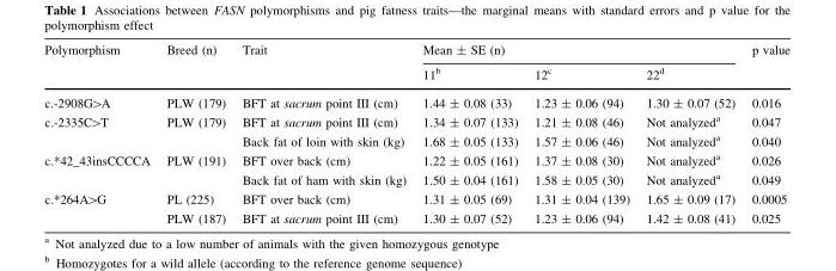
<table><thead><tr><td rowspan="2">Polymorphism</td><td rowspan="2">Breed (n)</td><td rowspan="2">Trait</td><td colspan="3">Mean ± SE (n)</td><td rowspan="2">p value</td></tr><tr><td>11<sup>b</sup></td><td>12<sup>c</sup></td><td>22<sup>d</sup></td></tr></thead><tbody><tr><td>c.-2908G&gt;A</td><td>PLW (179)</td><td>BFT at sacrum point III (cm)</td><td>1.44 ± 0.08 (33)</td><td>1.23 ± 0.06 (94)</td><td>1.30 ± 0.07 (52)</td><td>0.016</td></tr><tr><td rowspan="2">c.-2335C&gt;T</td><td rowspan="2">PLW (179)</td><td>BFT at sacrum point III (cm)</td><td>1.34 ± 0.07 (133)</td><td>1.21 ± 0.08 (46)</td><td>Not analyzed<sup>a</sup></td><td>0.047</td></tr><tr><td>Back fat of loin with skin (kg)</td><td>1.68 ± 0.05 (133)</td><td>1.57 ± 0.06 (46)</td><td>Not analyzed<sup>a</sup></td><td>0.040</td></tr><tr><td rowspan="2">c.*42_43insCCCCA</td><td rowspan="2">PLW (191)</td><td>BFT over back (cm)</td><td>1.22 ± 0.05 (161)</td><td>1.37 ± 0.08 (30)</td><td>Not analyzed<sup>a</sup></td><td>0.026</td></tr><tr><td>Back fat of ham with skin (kg)</td><td>1.50 ± 0.04 (161)</td><td>1.58 ± 0.05 (30)</td><td>Not analyzed<sup>a</sup></td><td>0.049</td></tr><tr><td rowspan="2">c.*264A&gt;G</td><td>PL (225)</td><td>BFT over back (cm)</td><td>1.31 ± 0.05 (69)</td><td>1.31 ± 0.04 (139)</td><td>1.65 ± 0.09 (17)</td><td>0.0005</td></tr><tr><td>PLW (187)</td><td>BFT at sacrum point III (cm)</td><td>1.30 ± 0.07 (52)</td><td>1.23 ± 0.06 (94)</td><td>1.42 ± 0.08 (41)</td><td>0.025</td></tr></tbody></table>